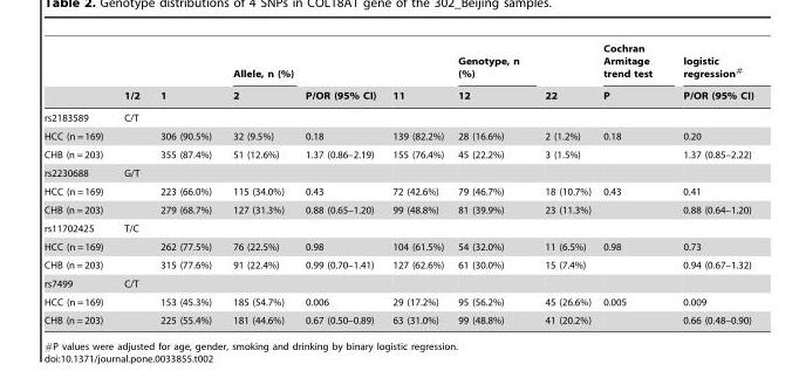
<table><thead><tr><td rowspan="2"></td><td rowspan="2">1/2</td><td rowspan="2">1</td><td rowspan="2">Allele, n (%) 2</td><td rowspan="2">P/OR (95% CI)</td><td rowspan="2">11</td><td rowspan="2">Genotype, n (%) 12</td><td rowspan="2">22</td><td rowspan="2">Cochran Armitage trend test P</td><td rowspan="2">logistic regression# P/OR (95% CI)</td></tr><tr></tr></thead><tbody><tr><td>rs2183589</td><td>C/T</td><td></td><td></td><td></td><td></td><td></td><td></td><td></td><td></td></tr><tr><td>HCC (n = 169)</td><td></td><td>306 (90.5%)</td><td>32 (9.5%)</td><td>0.18</td><td>139 (82.2%)</td><td>28 (16.6%)</td><td>2 (1.2%)</td><td>0.18</td><td>0.20</td></tr><tr><td>CHB (n = 203)</td><td></td><td>355 (87.4%)</td><td>51 (12.6%)</td><td>1.37 (0.86–2.19)</td><td>155 (76.4%)</td><td>45 (22.2%)</td><td>3 (1.5%)</td><td></td><td>1.37 (0.85–2.22)</td></tr><tr><td>rs2230688</td><td>G/T</td><td></td><td></td><td></td><td></td><td></td><td></td><td></td><td></td></tr><tr><td>HCC (n = 169)</td><td></td><td>223 (66.0%)</td><td>115 (34.0%)</td><td>0.43</td><td>72 (42.6%)</td><td>79 (46.7%)</td><td>18 (10.7%)</td><td>0.43</td><td>0.41</td></tr><tr><td>CHB (n = 203)</td><td></td><td>279 (68.7%)</td><td>127 (31.3%)</td><td>0.88 (0.65–1.20)</td><td>99 (48.8%)</td><td>81 (39.9%)</td><td>23 (11.3%)</td><td></td><td>0.88 (0.64–1.20)</td></tr><tr><td>rs11702425</td><td>T/C</td><td></td><td></td><td></td><td></td><td></td><td></td><td></td><td></td></tr><tr><td>HCC (n = 169)</td><td></td><td>262 (77.5%)</td><td>76 (22.5%)</td><td>0.98</td><td>104 (61.5%)</td><td>54 (32.0%)</td><td>11 (6.5%)</td><td>0.98</td><td>0.73</td></tr><tr><td>CHB (n = 203)</td><td></td><td>315 (77.6%)</td><td>91 (22.4%)</td><td>0.99 (0.70–1.41)</td><td>127 (62.6%)</td><td>61 (30.0%)</td><td>15 (7.4%)</td><td></td><td>0.94 (0.67–1.32)</td></tr><tr><td>rs7499</td><td>C/T</td><td></td><td></td><td></td><td></td><td></td><td></td><td></td><td></td></tr><tr><td>HCC (n = 169)</td><td></td><td>153 (45.3%)</td><td>185 (54.7%)</td><td>0.006</td><td>29 (17.2%)</td><td>95 (56.2%)</td><td>45 (26.6%)</td><td>0.005</td><td>0.009</td></tr><tr><td>CHB (n = 203)</td><td></td><td>225 (55.4%)</td><td>181 (44.6%)</td><td>0.67 (0.50–0.89)</td><td>63 (31.0%)</td><td>99 (48.8%)</td><td>41 (20.2%)</td><td></td><td>0.66 (0.48–0.90)</td></tr></tbody></table>